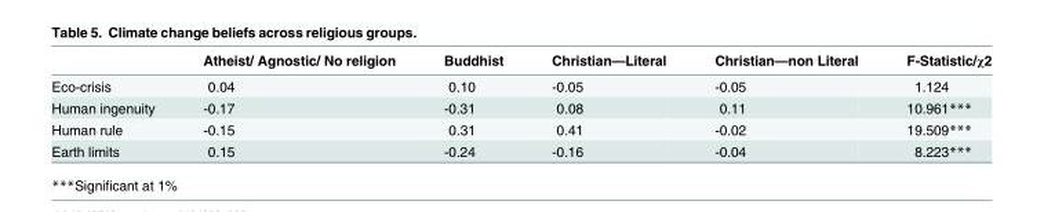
<table><thead><tr><td></td><td>Atheist/ Agnostic/ No religion</td><td>Buddhist</td><td>Christian—Literal</td><td>Christian—non Literal</td><td>F-Statistic/χ2</td></tr></thead><tbody><tr><td>Eco-crisis</td><td>0.04</td><td>0.10</td><td>-0.05</td><td>-0.05</td><td>1.124</td></tr><tr><td>Human ingenuity</td><td>-0.17</td><td>-0.31</td><td>0.08</td><td>0.11</td><td>10.961***</td></tr><tr><td>Human rule</td><td>-0.15</td><td>0.31</td><td>0.41</td><td>-0.02</td><td>19.509***</td></tr><tr><td>Earth limits</td><td>0.15</td><td>-0.24</td><td>-0.16</td><td>-0.04</td><td>8.223***</td></tr></tbody></table>